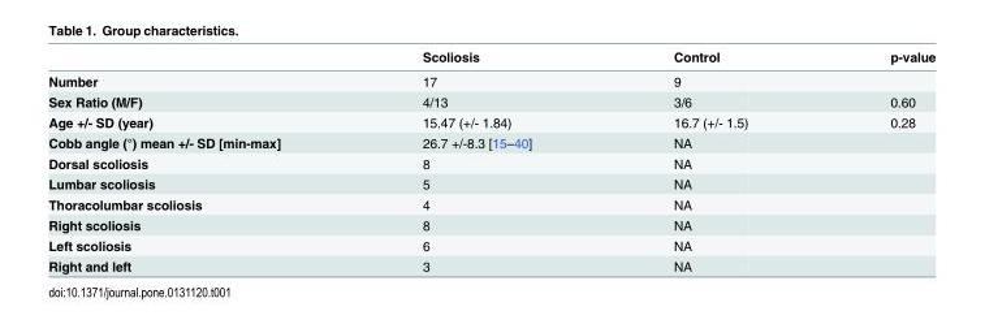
<table><thead><tr><td></td><td>Scoliosis</td><td>Control</td><td>p-value</td></tr></thead><tbody><tr><td>Number</td><td>17</td><td>9</td><td></td></tr><tr><td>Sex Ratio (M/F)</td><td>4/13</td><td>3/6</td><td>0.60</td></tr><tr><td>Age +/- SD (year)</td><td>15.47 (+/- 1.84)</td><td>16.7 (+/- 1.5)</td><td>0.28</td></tr><tr><td>Cobb angle (°) mean +/- SD [min-max]</td><td>26.7 +/-8.3 [15–40]</td><td>NA</td><td></td></tr><tr><td>Dorsal scoliosis</td><td>8</td><td>NA</td><td></td></tr><tr><td>Lumbar scoliosis</td><td>5</td><td>NA</td><td></td></tr><tr><td>Thoracolumbar scoliosis</td><td>4</td><td>NA</td><td></td></tr><tr><td>Right scoliosis</td><td>8</td><td>NA</td><td></td></tr><tr><td>Left scoliosis</td><td>6</td><td>NA</td><td></td></tr><tr><td>Right and left</td><td>3</td><td>NA</td><td></td></tr></tbody></table>